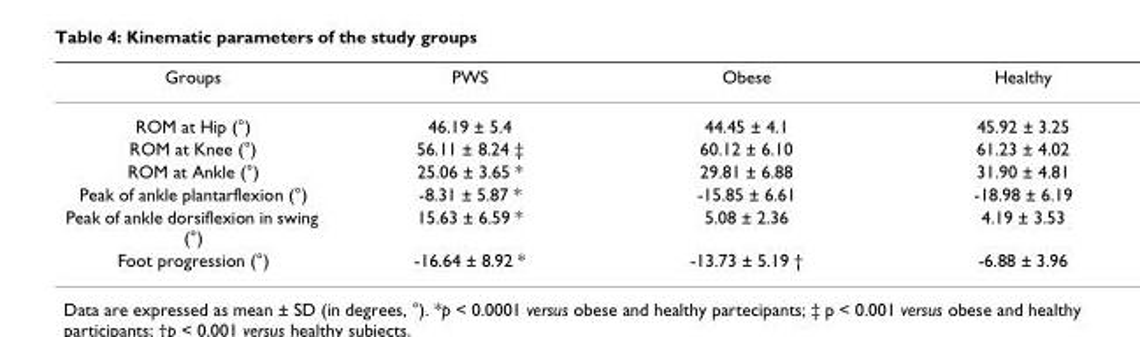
<table><thead><tr><td>Groups</td><td>PWS</td><td>Obese</td><td>Healthy</td></tr></thead><tbody><tr><td>ROM at Hip (°)</td><td>46.19 ± 5.4</td><td>44.45 ± 4.1</td><td>45.92 ± 3.25</td></tr><tr><td>ROM at Knee (°)</td><td>56.11 ± 8.24 ‡</td><td>60.12 ± 6.10</td><td>61.23 ± 4.02</td></tr><tr><td>ROM at Ankle (°)</td><td>25.06 ± 3.65 *</td><td>29.81 ± 6.88</td><td>31.90 ± 4.81</td></tr><tr><td>Peak of ankle plantarflexion (°)</td><td>-8.31 ± 5.87 *</td><td>-15.85 ± 6.61</td><td>-18.98 ± 6.19</td></tr><tr><td>Peak of ankle dorsiflexion in swing (°)</td><td>15.63 ± 6.59 *</td><td>5.08 ± 2.36</td><td>4.19 ± 3.53</td></tr><tr><td>Foot progression (°)</td><td>-16.64 ± 8.92 *</td><td>-13.73 ± 5.19 †</td><td>-6.88 ± 3.96</td></tr></tbody></table>